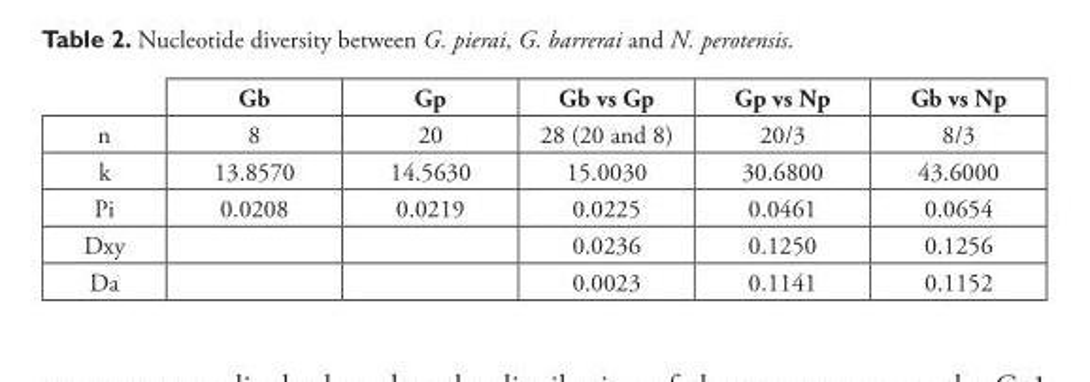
<table><thead><tr><td></td><td>Gb</td><td>Gp</td><td>Gb vs Gp</td><td>Gp vs Np</td><td>Gb vs Np</td></tr></thead><tbody><tr><td>n</td><td>8</td><td>20</td><td>28 (20 and 8)</td><td>20/3</td><td>8/3</td></tr><tr><td>k</td><td>13.8570</td><td>14.5630</td><td>15.0030</td><td>30.6800</td><td>43.6000</td></tr><tr><td>Pi</td><td>0.0208</td><td>0.0219</td><td>0.0225</td><td>0.0461</td><td>0.0654</td></tr><tr><td>Dxy</td><td></td><td></td><td>0.0236</td><td>0.1250</td><td>0.1256</td></tr><tr><td>Da</td><td></td><td></td><td>0.0023</td><td>0.1141</td><td>0.1152</td></tr></tbody></table>